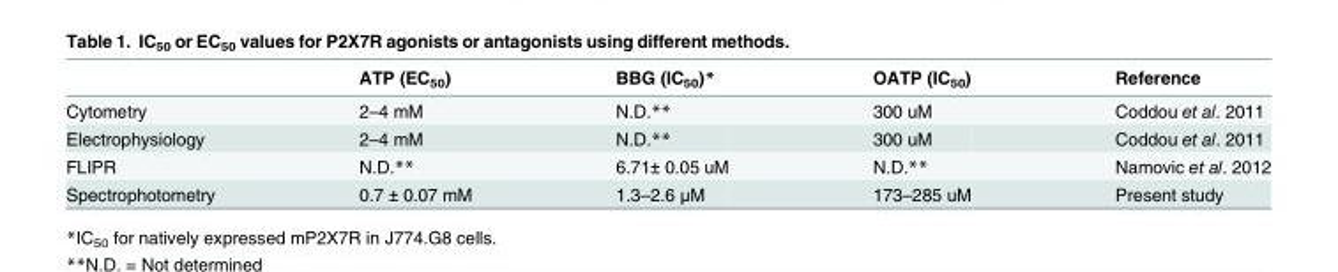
<table><thead><tr><td></td><td>ATP (EC<sub>50</sub>)</td><td>BBG (IC<sub>50</sub>)*</td><td>OATP (IC<sub>50</sub>)</td><td>Reference</td></tr></thead><tbody><tr><td>Cytometry</td><td>2–4 mM</td><td>N.D.**</td><td>300 uM</td><td>Coddou et al. 2011</td></tr><tr><td>Electrophysiology</td><td>2–4 mM</td><td>N.D.**</td><td>300 uM</td><td>Coddou et al. 2011</td></tr><tr><td>FLIPR</td><td>N.D.**</td><td>6.71± 0.05 uM</td><td>N.D.**</td><td>Namovic et al. 2012</td></tr><tr><td>Spectrophotometry</td><td>0.7 ± 0.07 mM</td><td>1.3–2.6 μM</td><td>173–285 uM</td><td>Present study</td></tr></tbody></table>